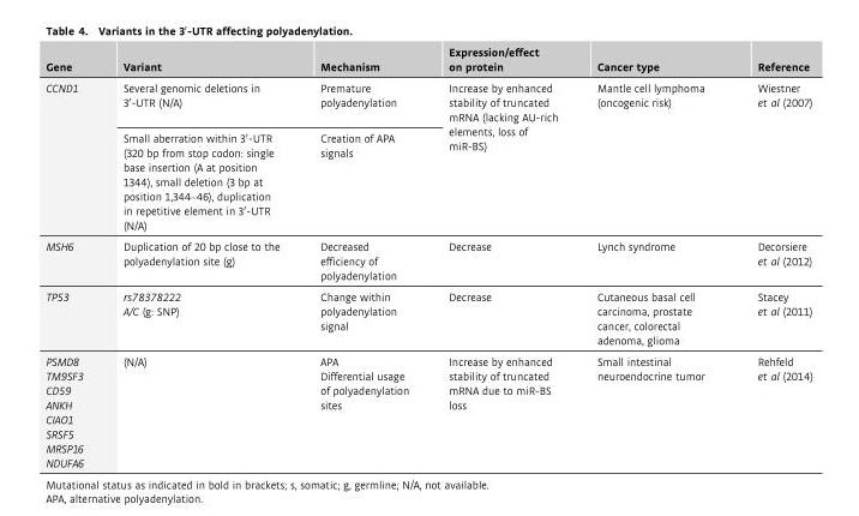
<table><thead><tr><td>Gene</td><td>Variant</td><td>Mechanism</td><td>Expression/effect on protein</td><td>Cancer type</td><td>Reference</td></tr></thead><tbody><tr><td rowspan="2">CCND1</td><td>Several genomic deletions in 3′-UTR (N/A)</td><td>Premature polyadenylation</td><td rowspan="2">Increase by enhanced stability of truncated mRNA (lacking AU-rich elements, loss of miR-BS)</td><td rowspan="2">Mantle cell lymphoma (oncogenic risk)</td><td rowspan="2">Wiestner et al (2007)</td></tr><tr><td>Small aberration within 3′-UTR (320 bp from stop codon: single base insertion (A at position 1344), small deletion (3 bp at position 1,344–46), duplication in repetitive element in 3′-UTR (N/A)</td><td>Creation of APA signals</td></tr><tr><td>MSH6</td><td>Duplication of 20 bp close to the polyadenylation site (g)</td><td>Decreased efficiency of polyadenylation</td><td>Decrease</td><td>Lynch syndrome</td><td>Decorsiere et al (2012)</td></tr><tr><td>TP53</td><td>rs78378222 A/C (g: SNP)</td><td>Change within polyadenylation signal</td><td>Decrease</td><td>Cutaneous basal cell carcinoma, prostate cancer, colorectal adenoma, glioma</td><td>Stacey et al (2011)</td></tr><tr><td>PSMD8 TM9SF3 CD59 ANKH CIAO1 SRSF5 MRSP16 NDUFA6</td><td>(N/A)</td><td>APA Differential usage of polyadenylation sites</td><td>Increase by enhanced stability of truncated mRNA due to miR-BS loss</td><td>Small intestinal neuroendocrine tumor</td><td>Rehfeld et al (2014)</td></tr></tbody></table>